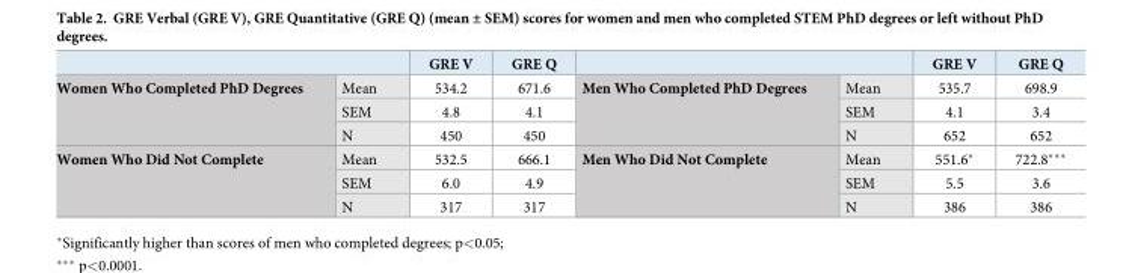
<table><thead><tr><td></td><td></td><td>GRE V</td><td>GRE Q</td><td></td><td></td><td>GRE V</td><td>GRE Q</td></tr></thead><tbody><tr><td rowspan="3">Women Who Completed PhD Degrees</td><td>Mean</td><td>534.2</td><td>671.6</td><td rowspan="3">Men Who Completed PhD Degrees</td><td>Mean</td><td>535.7</td><td>698.9</td></tr><tr><td>SEM</td><td>4.8</td><td>4.1</td><td>SEM</td><td>4.1</td><td>3.4</td></tr><tr><td>N</td><td>450</td><td>450</td><td>N</td><td>652</td><td>652</td></tr><tr><td rowspan="3">Women Who Did Not Complete</td><td>Mean</td><td>532.5</td><td>666.1</td><td rowspan="3">Men Who Did Not Complete</td><td>Mean</td><td>551.6*</td><td>722.8***</td></tr><tr><td>SEM</td><td>6.0</td><td>4.9</td><td>SEM</td><td>5.5</td><td>3.6</td></tr><tr><td>N</td><td>317</td><td>317</td><td>N</td><td>386</td><td>386</td></tr></tbody></table>